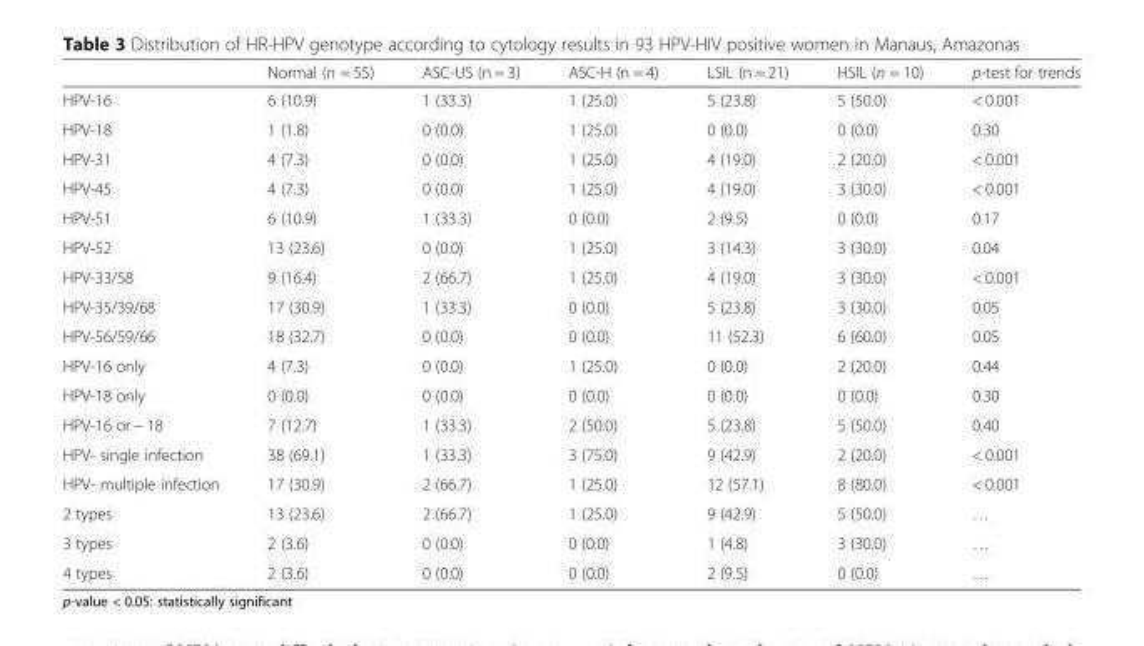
<table><thead><tr><td></td><td>Normal (n = 55)</td><td>ASC-US (n = 3)</td><td>ASC-H (n = 4)</td><td>LSIL (n = 21)</td><td>HSIL (n = 10)</td><td>p-test for trends</td></tr></thead><tbody><tr><td>HPV-16</td><td>6 (10.9)</td><td>1 (33.3)</td><td>1 (25.0)</td><td>5 (23.8)</td><td>5 (50.0)</td><td>&lt; 0.001</td></tr><tr><td>HPV-18</td><td>1 (1.8)</td><td>0 (0.0)</td><td>1 (25.0)</td><td>0 (0.0)</td><td>0 (0.0)</td><td>0.30</td></tr><tr><td>HPV-31</td><td>4 (7.3)</td><td>0 (0.0)</td><td>1 (25.0)</td><td>4 (19.0)</td><td>2 (20.0)</td><td>&lt; 0.001</td></tr><tr><td>HPV-45</td><td>4 (7.3)</td><td>0 (0.0)</td><td>1 (25.0)</td><td>4 (19.0)</td><td>3 (30.0)</td><td>&lt; 0.001</td></tr><tr><td>HPV-51</td><td>6 (10.9)</td><td>1 (33.3)</td><td>0 (0.0)</td><td>2 (9.5)</td><td>0 (0.0)</td><td>0.17</td></tr><tr><td>HPV-52</td><td>13 (23.6)</td><td>0 (0.0)</td><td>1 (25.0)</td><td>3 (14.3)</td><td>3 (30.0)</td><td>0.04</td></tr><tr><td>HPV-33/58</td><td>9 (16.4)</td><td>2 (66.7)</td><td>1 (25.0)</td><td>4 (19.0)</td><td>3 (30.0)</td><td>&lt; 0.001</td></tr><tr><td>HPV-35/39/68</td><td>17 (30.9)</td><td>1 (33.3)</td><td>0 (0.0)</td><td>5 (23.8)</td><td>3 (30.0)</td><td>0.05</td></tr><tr><td>HPV-56/59/66</td><td>18 (32.7)</td><td>0 (0.0)</td><td>0 (0.0)</td><td>11 (52.3)</td><td>6 (60.0)</td><td>0.05</td></tr><tr><td>HPV-16 only</td><td>4 (7.3)</td><td>0 (0.0)</td><td>1 (25.0)</td><td>0 (0.0)</td><td>2 (20.0)</td><td>0.44</td></tr><tr><td>HPV-18 only</td><td>0 (0.0)</td><td>0 (0.0)</td><td>0 (0.0)</td><td>0 (0.0)</td><td>0 (0.0)</td><td>0.30</td></tr><tr><td>HPV-16 or − 18</td><td>7 (12.7)</td><td>1 (33.3)</td><td>2 (50.0)</td><td>5 (23.8)</td><td>5 (50.0)</td><td>0.40</td></tr><tr><td>HPV- single infection</td><td>38 (69.1)</td><td>1 (33.3)</td><td>3 (75.0)</td><td>9 (42.9)</td><td>2 (20.0)</td><td>&lt; 0.001</td></tr><tr><td>HPV- multiple infection</td><td>17 (30.9)</td><td>2 (66.7)</td><td>1 (25.0)</td><td>12 (57.1)</td><td>8 (80.0)</td><td>&lt; 0.001</td></tr><tr><td>2 types</td><td>13 (23.6)</td><td>2 (66.7)</td><td>1 (25.0)</td><td>9 (42.9)</td><td>5 (50.0)</td><td>…</td></tr><tr><td>3 types</td><td>2 (3.6)</td><td>0 (0.0)</td><td>0 (0.0)</td><td>1 (4.8)</td><td>3 (30.0)</td><td>…</td></tr><tr><td>4 types</td><td>2 (3.6)</td><td>0 (0.0)</td><td>0 (0.0)</td><td>2 (9.5)</td><td>0 (0.0)</td><td>…</td></tr></tbody></table>